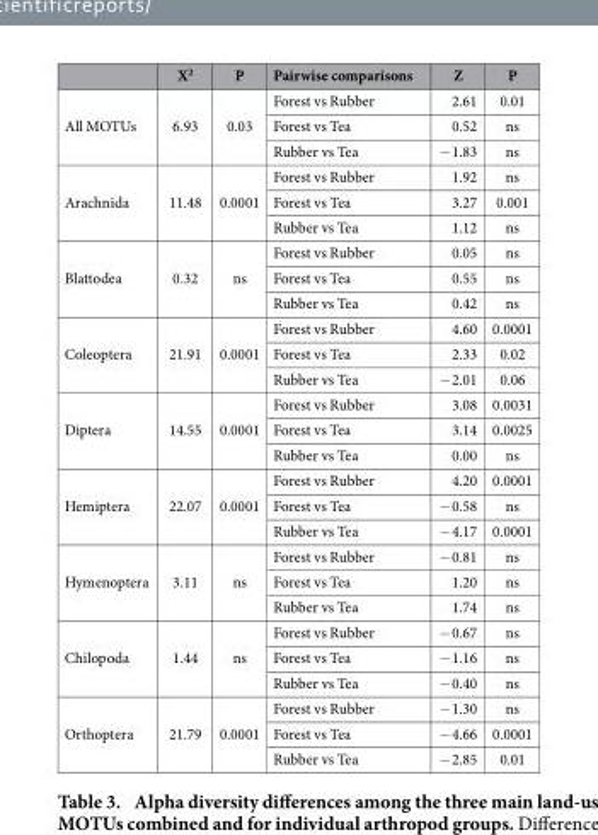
<table><thead><tr><td></td><td>X<sup>2</sup></td><td>P</td><td>Pairwise comparisons</td><td>Z</td><td>P</td></tr></thead><tbody><tr><td rowspan="3">All MOTUs</td><td rowspan="3">6.93</td><td rowspan="3">0.03</td><td>Forest vs Rubber</td><td>2.61</td><td>0.01</td></tr><tr><td>Forest vs Tea</td><td>0.52</td><td>ns</td></tr><tr><td>Rubber vs Tea</td><td>− 1.83</td><td>ns</td></tr><tr><td rowspan="3">Arachnida</td><td rowspan="3">11.48</td><td rowspan="3">0.0001</td><td>Forest vs Rubber</td><td>1.92</td><td>ns</td></tr><tr><td>Forest vs Tea</td><td>3.27</td><td>0.001</td></tr><tr><td>Rubber vs Tea</td><td>1.12</td><td>ns</td></tr><tr><td rowspan="3">Blattodea</td><td rowspan="3">0.32</td><td rowspan="3">ns</td><td>Forest vs Rubber</td><td>0.05</td><td>ns</td></tr><tr><td>Forest vs Tea</td><td>0.55</td><td>ns</td></tr><tr><td>Rubber vs Tea</td><td>0.42</td><td>ns</td></tr><tr><td rowspan="3">Coleoptera</td><td rowspan="3">21.91</td><td rowspan="3">0.0001</td><td>Forest vs Rubber</td><td>4.60</td><td>0.0001</td></tr><tr><td>Forest vs Tea</td><td>2.33</td><td>0.02</td></tr><tr><td>Rubber vs Tea</td><td>− 2.01</td><td>0.06</td></tr><tr><td rowspan="3">Diptera</td><td rowspan="3">14.55</td><td rowspan="3">0.0001</td><td>Forest vs Rubber</td><td>3.08</td><td>0.0031</td></tr><tr><td>Forest vs Tea</td><td>3.14</td><td>0.0025</td></tr><tr><td>Rubber vs Tea</td><td>0.00</td><td>ns</td></tr><tr><td rowspan="3">Hemiptera</td><td rowspan="3">22.07</td><td rowspan="3">0.0001</td><td>Forest vs Rubber</td><td>4.20</td><td>0.0001</td></tr><tr><td>Forest vs Tea</td><td>− 0.58</td><td>ns</td></tr><tr><td>Rubber vs Tea</td><td>− 4.17</td><td>0.0001</td></tr><tr><td rowspan="3">Hymenoptera</td><td rowspan="3">3.11</td><td rowspan="3">ns</td><td>Forest vs Rubber</td><td>− 0.81</td><td>ns</td></tr><tr><td>Forest vs Tea</td><td>1.20</td><td>ns</td></tr><tr><td>Rubber vs Tea</td><td>1.74</td><td>ns</td></tr><tr><td rowspan="3">Chilopoda</td><td rowspan="3">1.44</td><td rowspan="3">ns</td><td>Forest vs Rubber</td><td>− 0.67</td><td>ns</td></tr><tr><td>Forest vs Tea</td><td>− 1.16</td><td>ns</td></tr><tr><td>Rubber vs Tea</td><td>− 0.40</td><td>ns</td></tr><tr><td rowspan="3">Orthoptera</td><td rowspan="3">21.79</td><td rowspan="3">0.0001</td><td>Forest vs Rubber</td><td>− 1.30</td><td>ns</td></tr><tr><td>Forest vs Tea</td><td>− 4.66</td><td>0.0001</td></tr><tr><td>Rubber vs Tea</td><td>− 2.85</td><td>0.01</td></tr></tbody></table>